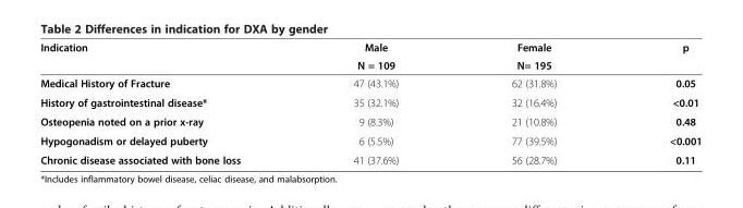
<table><thead><tr><td rowspan="2">Indication</td><td rowspan="2">Male N = 109</td><td rowspan="2">Female N= 195</td><td rowspan="2">p</td></tr><tr></tr></thead><tbody><tr><td>Medical History of Fracture</td><td>47 (43.1%)</td><td>62 (31.8%)</td><td>0.05</td></tr><tr><td>History of gastrointestinal disease*</td><td>35 (32.1%)</td><td>32 (16.4%)</td><td>&lt;0.01</td></tr><tr><td>Osteopenia noted on a prior x-ray</td><td>9 (8.3%)</td><td>21 (10.8%)</td><td>0.48</td></tr><tr><td>Hypogonadism or delayed puberty</td><td>6 (5.5%)</td><td>77 (39.5%)</td><td>&lt;0.001</td></tr><tr><td>Chronic disease associated with bone loss</td><td>41 (37.6%)</td><td>56 (28.7%)</td><td>0.11</td></tr></tbody></table>